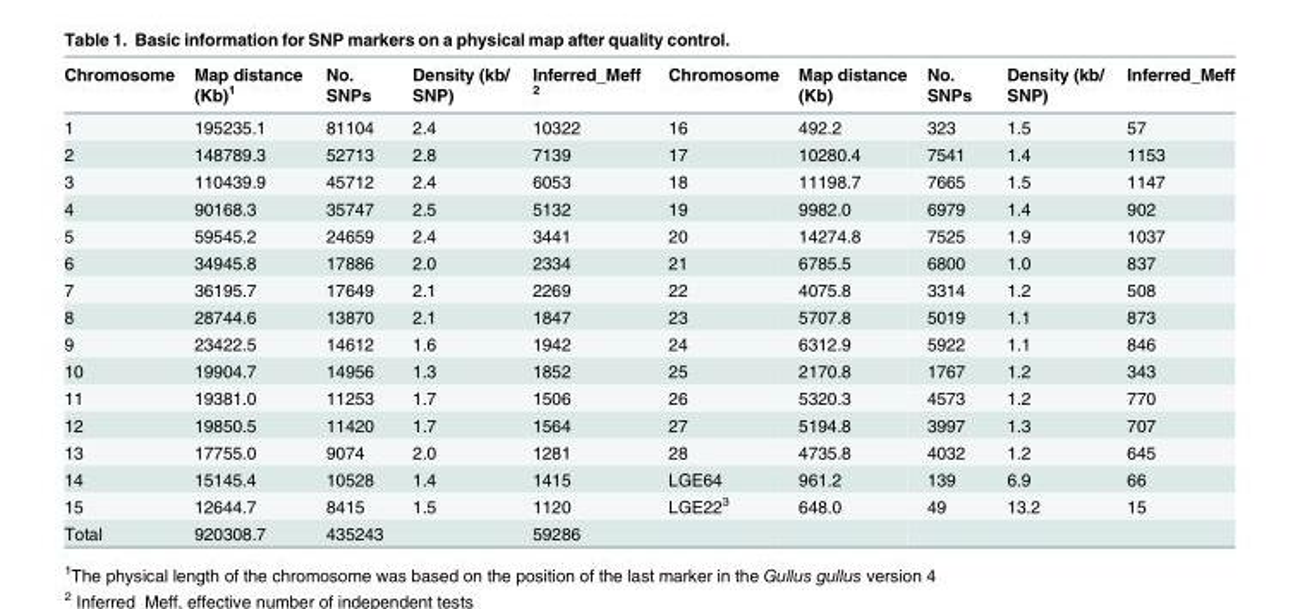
<table><thead><tr><td>Chromosome</td><td>Map distance (Kb)<sup>1</sup></td><td>No. SNPs</td><td>Density (kb/ SNP)</td><td>Inferred_Meff <sup>2</sup></td><td>Chromosome</td><td>Map distance (Kb)</td><td>No. SNPs</td><td>Density (kb/ SNP)</td><td>Inferred_Meff</td></tr></thead><tbody><tr><td>1</td><td>195235.1</td><td>81104</td><td>2.4</td><td>10322</td><td>16</td><td>492.2</td><td>323</td><td>1.5</td><td>57</td></tr><tr><td>2</td><td>148789.3</td><td>52713</td><td>2.8</td><td>7139</td><td>17</td><td>10280.4</td><td>7541</td><td>1.4</td><td>1153</td></tr><tr><td>3</td><td>110439.9</td><td>45712</td><td>2.4</td><td>6053</td><td>18</td><td>11198.7</td><td>7665</td><td>1.5</td><td>1147</td></tr><tr><td>4</td><td>90168.3</td><td>35747</td><td>2.5</td><td>5132</td><td>19</td><td>9982.0</td><td>6979</td><td>1.4</td><td>902</td></tr><tr><td>5</td><td>59545.2</td><td>24659</td><td>2.4</td><td>3441</td><td>20</td><td>14274.8</td><td>7525</td><td>1.9</td><td>1037</td></tr><tr><td>6</td><td>34945.8</td><td>17886</td><td>2.0</td><td>2334</td><td>21</td><td>6785.5</td><td>6800</td><td>1.0</td><td>837</td></tr><tr><td>7</td><td>36195.7</td><td>17649</td><td>2.1</td><td>2269</td><td>22</td><td>4075.8</td><td>3314</td><td>1.2</td><td>508</td></tr><tr><td>8</td><td>28744.6</td><td>13870</td><td>2.1</td><td>1847</td><td>23</td><td>5707.8</td><td>5019</td><td>1.1</td><td>873</td></tr><tr><td>9</td><td>23422.5</td><td>14612</td><td>1.6</td><td>1942</td><td>24</td><td>6312.9</td><td>5922</td><td>1.1</td><td>846</td></tr><tr><td>10</td><td>19904.7</td><td>14956</td><td>1.3</td><td>1852</td><td>25</td><td>2170.8</td><td>1767</td><td>1.2</td><td>343</td></tr><tr><td>11</td><td>19381.0</td><td>11253</td><td>1.7</td><td>1506</td><td>26</td><td>5320.3</td><td>4573</td><td>1.2</td><td>770</td></tr><tr><td>12</td><td>19850.5</td><td>11420</td><td>1.7</td><td>1564</td><td>27</td><td>5194.8</td><td>3997</td><td>1.3</td><td>707</td></tr><tr><td>13</td><td>17755.0</td><td>9074</td><td>2.0</td><td>1281</td><td>28</td><td>4735.8</td><td>4032</td><td>1.2</td><td>645</td></tr><tr><td>14</td><td>15145.4</td><td>10528</td><td>1.4</td><td>1415</td><td>LGE64</td><td>961.2</td><td>139</td><td>6.9</td><td>66</td></tr><tr><td>15</td><td>12644.7</td><td>8415</td><td>1.5</td><td>1120</td><td>LGE22<sup>3</sup></td><td>648.0</td><td>49</td><td>13.2</td><td>15</td></tr><tr><td>Total</td><td>920308.7</td><td>435243</td><td></td><td>59286</td><td></td><td></td><td></td><td></td><td></td></tr></tbody></table>